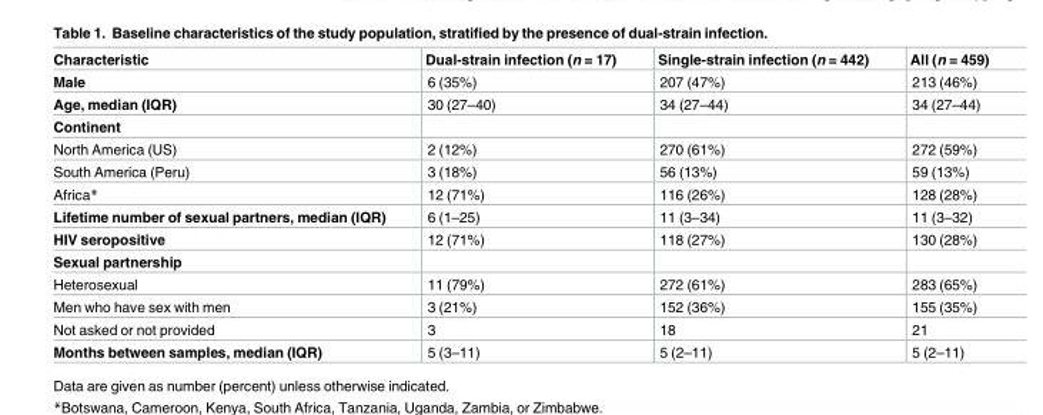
<table><thead><tr><td>Characteristic</td><td>Dual-strain infection (n = 17)</td><td>Single-strain infection (n = 442)</td><td>All (n = 459)</td></tr></thead><tbody><tr><td>Male</td><td>6 (35%)</td><td>207 (47%)</td><td>213 (46%)</td></tr><tr><td>Age, median (IQR)</td><td>30 (27–40)</td><td>34 (27–44)</td><td>34 (27–44)</td></tr><tr><td colspan="4">Continent</td></tr><tr><td>North America (US)</td><td>2 (12%)</td><td>270 (61%)</td><td>272 (59%)</td></tr><tr><td>South America (Peru)</td><td>3 (18%)</td><td>56 (13%)</td><td>59 (13%)</td></tr><tr><td>Africa*</td><td>12 (71%)</td><td>116 (26%)</td><td>128 (28%)</td></tr><tr><td>Lifetime number of sexual partners, median (IQR)</td><td>6 (1–25)</td><td>11 (3–34)</td><td>11 (3–32)</td></tr><tr><td>HIV seropositive</td><td>12 (71%)</td><td>118 (27%)</td><td>130 (28%)</td></tr><tr><td colspan="4">Sexual partnership</td></tr><tr><td>Heterosexual</td><td>11 (79%)</td><td>272 (61%)</td><td>283 (65%)</td></tr><tr><td>Men who have sex with men</td><td>3 (21%)</td><td>152 (36%)</td><td>155 (35%)</td></tr><tr><td>Not asked or not provided</td><td>3</td><td>18</td><td>21</td></tr><tr><td>Months between samples, median (IQR)</td><td>5 (3–11)</td><td>5 (2–11)</td><td>5 (2–11)</td></tr></tbody></table>